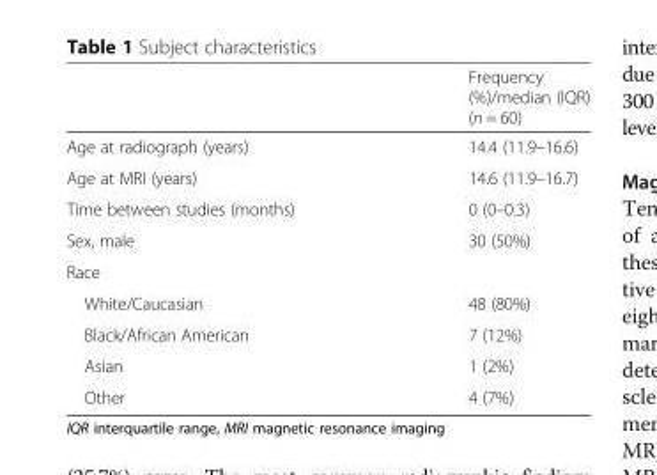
<table><thead><tr><td></td><td>Frequency (%)/median (IQR) (n = 60)</td></tr></thead><tbody><tr><td>Age at radiograph (years)</td><td>14.4 (11.9–16.6)</td></tr><tr><td>Age at MRI (years)</td><td>14.6 (11.9–16.7)</td></tr><tr><td>Time between studies (months)</td><td>0 (0–0.3)</td></tr><tr><td>Sex, male</td><td>30 (50%)</td></tr><tr><td colspan="2">Race</td></tr><tr><td>White/Caucasian</td><td>48 (80%)</td></tr><tr><td>Black/African American</td><td>7 (12%)</td></tr><tr><td>Asian</td><td>1 (2%)</td></tr><tr><td>Other</td><td>4 (7%)</td></tr></tbody></table>